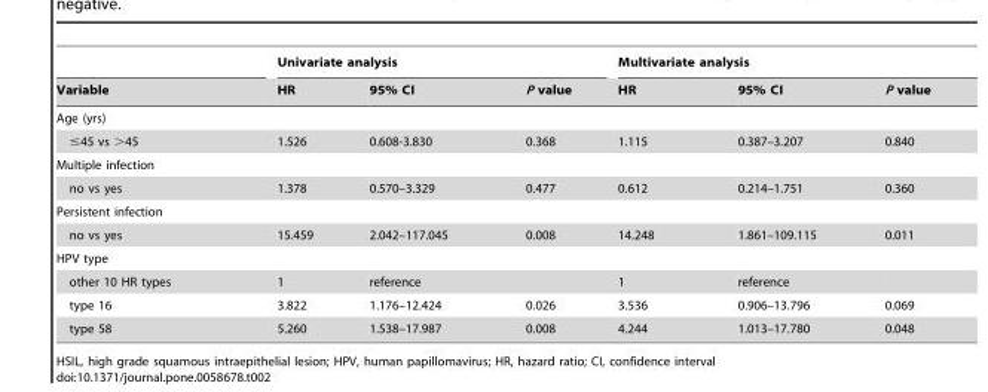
<table><thead><tr><td rowspan="2">Variable</td><td colspan="3">Univariate analysis</td><td colspan="3">Multivariate analysis</td></tr><tr><td>HR</td><td>95% CI</td><td>P value</td><td>HR</td><td>95% CI</td><td>P value</td></tr></thead><tbody><tr><td colspan="7">Age (yrs)</td></tr><tr><td>≤45 vs &gt;45</td><td>1.526</td><td>0.608-3.830</td><td>0.368</td><td>1.115</td><td>0.387–3.207</td><td>0.840</td></tr><tr><td colspan="7">Multiple infection</td></tr><tr><td>no vs yes</td><td>1.378</td><td>0.570–3.329</td><td>0.477</td><td>0.612</td><td>0.214–1.751</td><td>0.360</td></tr><tr><td colspan="7">Persistent infection</td></tr><tr><td>no vs yes</td><td>15.459</td><td>2.042–117.045</td><td>0.008</td><td>14.248</td><td>1.861–109.115</td><td>0.011</td></tr><tr><td colspan="7">HPV type</td></tr><tr><td>other 10 HR types</td><td>1</td><td>reference</td><td></td><td>1</td><td>reference</td><td></td></tr><tr><td>type 16</td><td>3.822</td><td>1.176–12.424</td><td>0.026</td><td>3.536</td><td>0.906–13.796</td><td>0.069</td></tr><tr><td>type 58</td><td>5.260</td><td>1.538–17.987</td><td>0.008</td><td>4.244</td><td>1.013–17.780</td><td>0.048</td></tr></tbody></table>